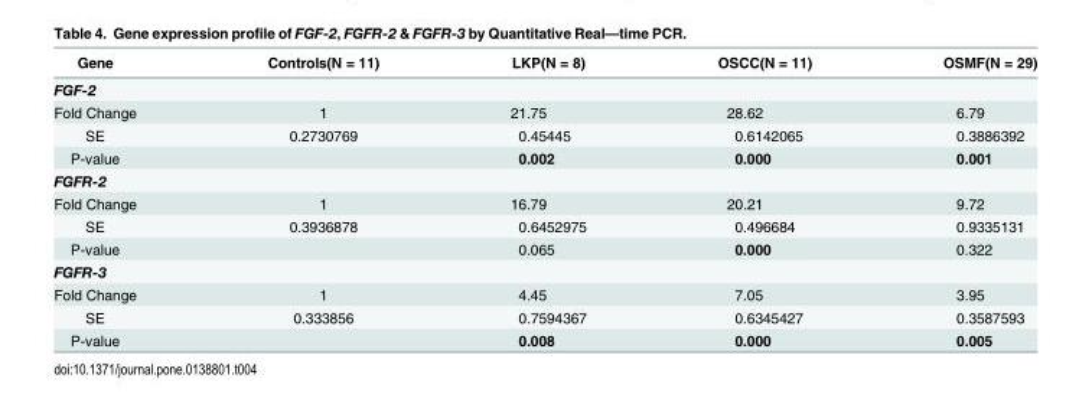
<table><thead><tr><td>Gene</td><td>Controls(N = 11)</td><td>LKP(N = 8)</td><td>OSCC(N = 11)</td><td>OSMF(N = 29)</td></tr></thead><tbody><tr><td colspan="5">FGF-2</td></tr><tr><td>Fold Change</td><td>1</td><td>21.75</td><td>28.62</td><td>6.79</td></tr><tr><td>SE</td><td>0.2730769</td><td>0.45445</td><td>0.6142065</td><td>0.3886392</td></tr><tr><td>P-value</td><td></td><td>0.002</td><td>0.000</td><td>0.001</td></tr><tr><td colspan="5">FGFR-2</td></tr><tr><td>Fold Change</td><td>1</td><td>16.79</td><td>20.21</td><td>9.72</td></tr><tr><td>SE</td><td>0.3936878</td><td>0.6452975</td><td>0.496684</td><td>0.9335131</td></tr><tr><td>P-value</td><td></td><td>0.065</td><td>0.000</td><td>0.322</td></tr><tr><td colspan="5">FGFR-3</td></tr><tr><td>Fold Change</td><td>1</td><td>4.45</td><td>7.05</td><td>3.95</td></tr><tr><td>SE</td><td>0.333856</td><td>0.7594367</td><td>0.6345427</td><td>0.3587593</td></tr><tr><td>P-value</td><td></td><td>0.008</td><td>0.000</td><td>0.005</td></tr></tbody></table>